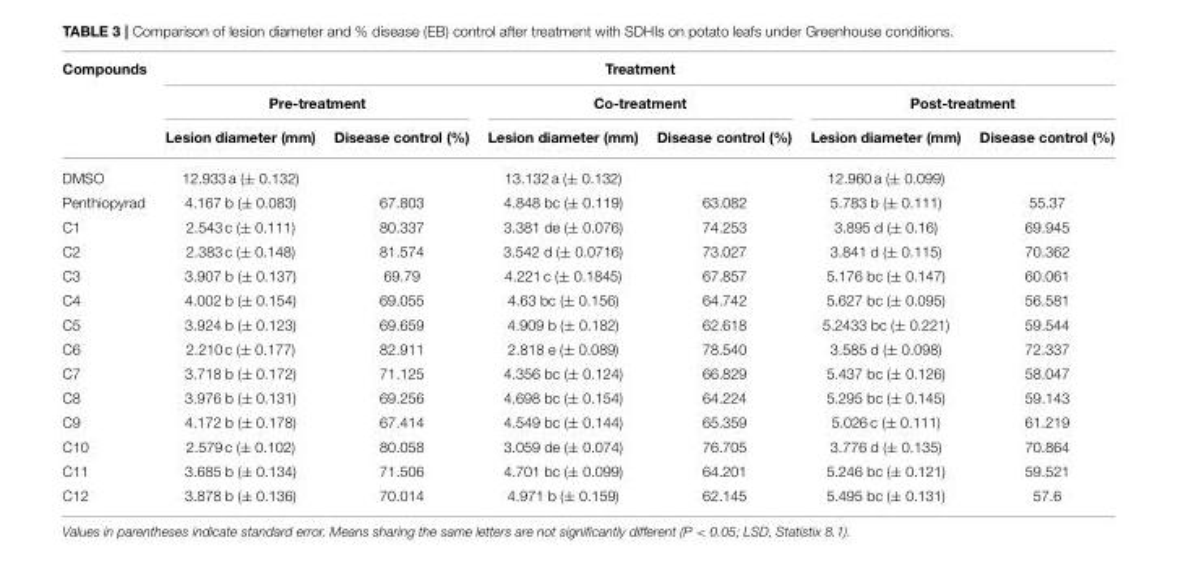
<table><thead><tr><td rowspan="3">Compounds</td><td colspan="6">Treatment</td></tr><tr><td colspan="2">Pre-treatment</td><td colspan="2">Co-treatment</td><td colspan="2">Post-treatment</td></tr><tr><td>Lesion diameter (mm)</td><td>Disease control (%)</td><td>Lesion diameter (mm)</td><td>Disease control (%)</td><td>Lesion diameter (mm)</td><td>Disease control (%)</td></tr></thead><tbody><tr><td>DMSO</td><td>12.933 a (± 0.132)</td><td></td><td>13.132 a (± 0.132)</td><td></td><td>12.960 a (± 0.099)</td><td></td></tr><tr><td>Penthiopyrad</td><td>4.167 b (± 0.083)</td><td>67.803</td><td>4.848 bc (± 0.119)</td><td>63.082</td><td>5.783 b (± 0.111)</td><td>55.37</td></tr><tr><td>C1</td><td>2.543 c (± 0.111)</td><td>80.337</td><td>3.381 de (± 0.076)</td><td>74.253</td><td>3.895 d (± 0.16)</td><td>69.945</td></tr><tr><td>C2</td><td>2.383 c (± 0.148)</td><td>81.574</td><td>3.542 d (± 0.0716)</td><td>73.027</td><td>3.841 d (± 0.115)</td><td>70.362</td></tr><tr><td>C3</td><td>3.907 b (± 0.137)</td><td>69.79</td><td>4.221 c (± 0.1845)</td><td>67.857</td><td>5.176 bc (± 0.147)</td><td>60.061</td></tr><tr><td>C4</td><td>4.002 b (± 0.154)</td><td>69.055</td><td>4.63 bc (± 0.156)</td><td>64.742</td><td>5.627 bc (± 0.095)</td><td>56.581</td></tr><tr><td>C5</td><td>3.924 b (± 0.123)</td><td>69.659</td><td>4.909 b (± 0.182)</td><td>62.618</td><td>5.2433 bc (± 0.221)</td><td>59.544</td></tr><tr><td>C6</td><td>2.210 c (± 0.177)</td><td>82.911</td><td>2.818 e (± 0.089)</td><td>78.540</td><td>3.585 d (± 0.098)</td><td>72.337</td></tr><tr><td>C7</td><td>3.718 b (± 0.172)</td><td>71.125</td><td>4.356 bc (± 0.124)</td><td>66.829</td><td>5.437 bc (± 0.126)</td><td>58.047</td></tr><tr><td>C8</td><td>3.976 b (± 0.131)</td><td>69.256</td><td>4.698 bc (± 0.154)</td><td>64.224</td><td>5.295 bc (± 0.145)</td><td>59.143</td></tr><tr><td>C9</td><td>4.172 b (± 0.178)</td><td>67.414</td><td>4.549 bc (± 0.144)</td><td>65.359</td><td>5.026 c (± 0.111)</td><td>61.219</td></tr><tr><td>C10</td><td>2.579 c (± 0.102)</td><td>80.058</td><td>3.059 de (± 0.074)</td><td>76.705</td><td>3.776 d (± 0.135)</td><td>70.864</td></tr><tr><td>C11</td><td>3.685 b (± 0.134)</td><td>71.506</td><td>4.701 bc (± 0.099)</td><td>64.201</td><td>5.246 bc (± 0.121)</td><td>59.521</td></tr><tr><td>C12</td><td>3.878 b (± 0.136)</td><td>70.014</td><td>4.971 b (± 0.159)</td><td>62.145</td><td>5.495 bc (± 0.131)</td><td>57.6</td></tr></tbody></table>